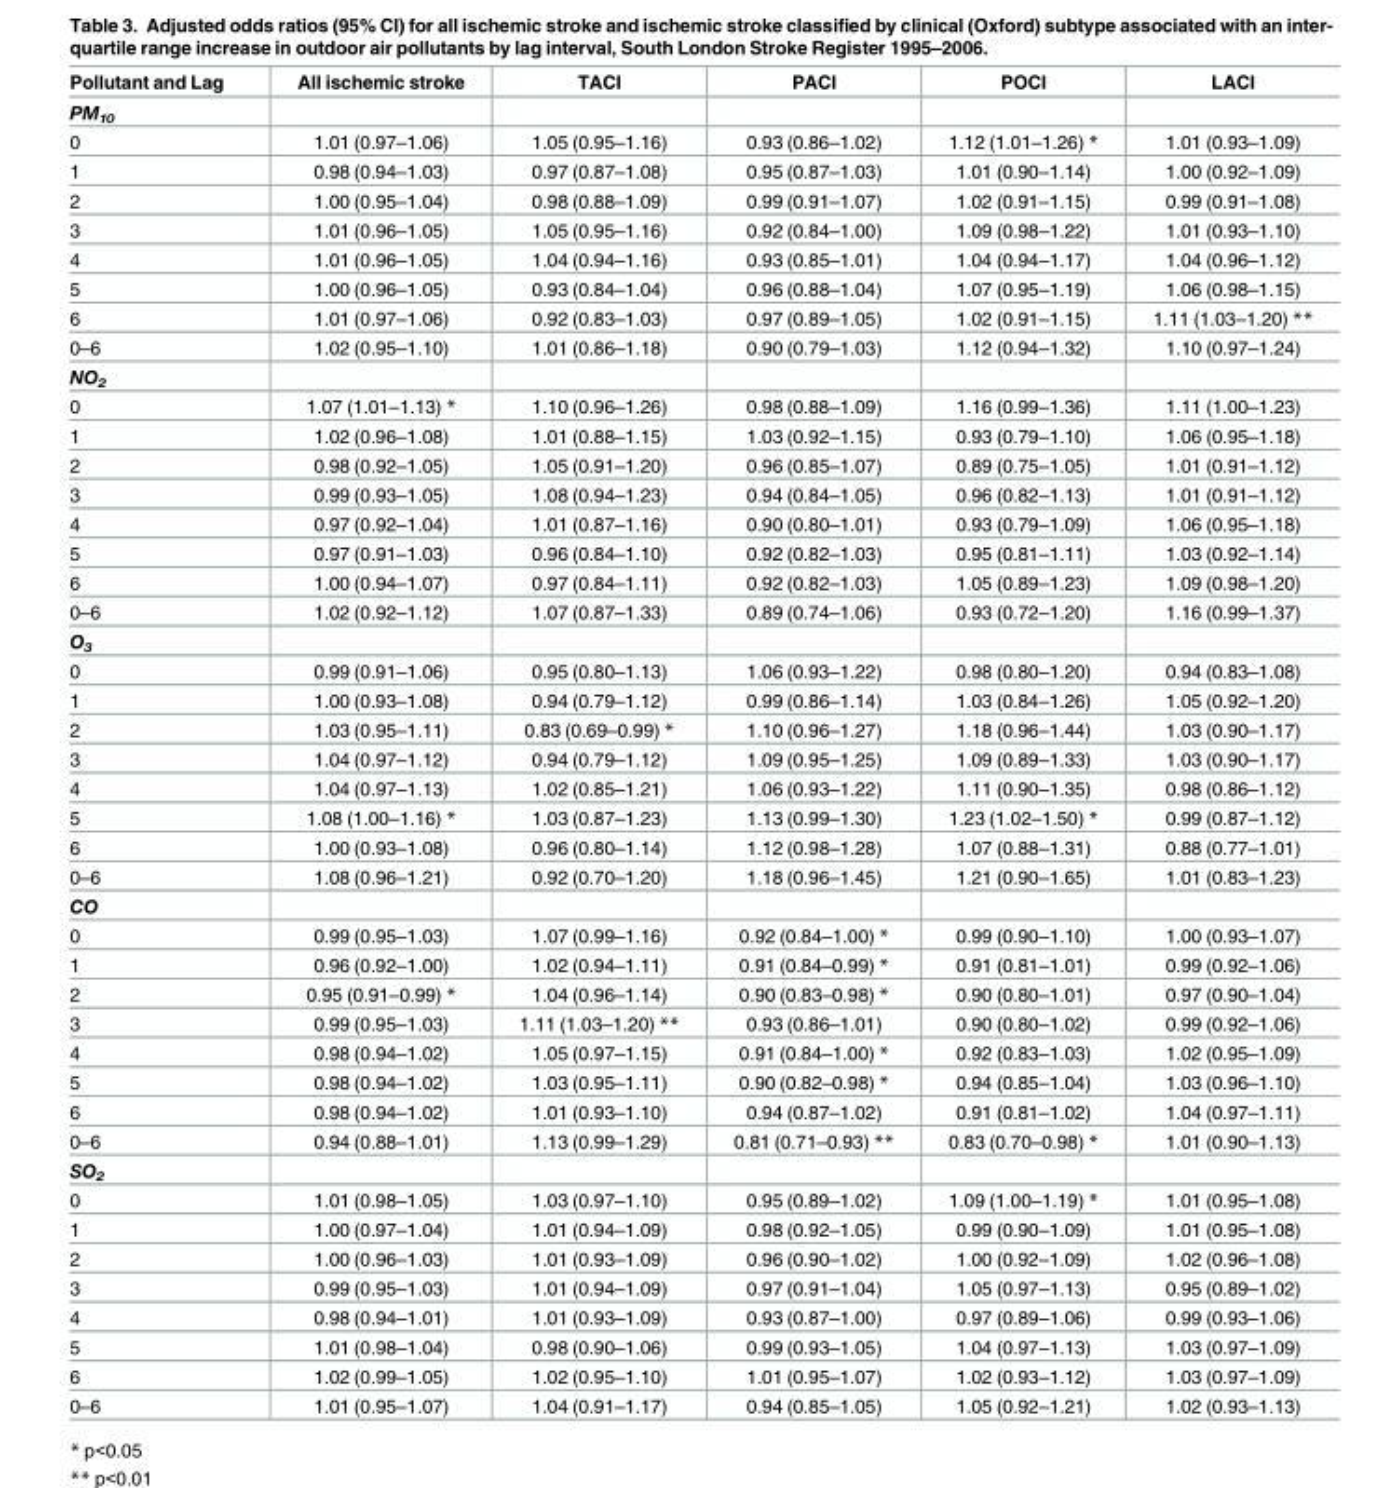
<table><thead><tr><td>Pollutant and Lag</td><td>All ischemic stroke</td><td>TACI</td><td>PACI</td><td>POCI</td><td>LACI</td></tr></thead><tbody><tr><td colspan="6">PM<sub>10</sub></td></tr><tr><td>0</td><td>1.01 (0.97–1.06)</td><td>1.05 (0.95–1.16)</td><td>0.93 (0.86–1.02)</td><td>1.12 (1.01–1.26) *</td><td>1.01 (0.93–1.09)</td></tr><tr><td>1</td><td>0.98 (0.94–1.03)</td><td>0.97 (0.87–1.08)</td><td>0.95 (0.87–1.03)</td><td>1.01 (0.90–1.14)</td><td>1.00 (0.92–1.09)</td></tr><tr><td>2</td><td>1.00 (0.95–1.04)</td><td>0.98 (0.88–1.09)</td><td>0.99 (0.91–1.07)</td><td>1.02 (0.91–1.15)</td><td>0.99 (0.91–1.08)</td></tr><tr><td>3</td><td>1.01 (0.96–1.05)</td><td>1.05 (0.95–1.16)</td><td>0.92 (0.84–1.00)</td><td>1.09 (0.98–1.22)</td><td>1.01 (0.93–1.10)</td></tr><tr><td>4</td><td>1.01 (0.96–1.05)</td><td>1.04 (0.94–1.16)</td><td>0.93 (0.85–1.01)</td><td>1.04 (0.94–1.17)</td><td>1.04 (0.96–1.12)</td></tr><tr><td>5</td><td>1.00 (0.96–1.05)</td><td>0.93 (0.84–1.04)</td><td>0.96 (0.88–1.04)</td><td>1.07 (0.95–1.19)</td><td>1.06 (0.98–1.15)</td></tr><tr><td>6</td><td>1.01 (0.97–1.06)</td><td>0.92 (0.83–1.03)</td><td>0.97 (0.89–1.05)</td><td>1.02 (0.91–1.15)</td><td>1.11 (1.03–1.20) **</td></tr><tr><td>0–6</td><td>1.02 (0.95–1.10)</td><td>1.01 (0.86–1.18)</td><td>0.90 (0.79–1.03)</td><td>1.12 (0.94–1.32)</td><td>1.10 (0.97–1.24)</td></tr><tr><td colspan="6">NO<sub>2</sub></td></tr><tr><td>0</td><td>1.07 (1.01–1.13) *</td><td>1.10 (0.96–1.26)</td><td>0.98 (0.88–1.09)</td><td>1.16 (0.99–1.36)</td><td>1.11 (1.00–1.23)</td></tr><tr><td>1</td><td>1.02 (0.96–1.08)</td><td>1.01 (0.88–1.15)</td><td>1.03 (0.92–1.15)</td><td>0.93 (0.79–1.10)</td><td>1.06 (0.95–1.18)</td></tr><tr><td>2</td><td>0.98 (0.92–1.05)</td><td>1.05 (0.91–1.20)</td><td>0.96 (0.85–1.07)</td><td>0.89 (0.75–1.05)</td><td>1.01 (0.91–1.12)</td></tr><tr><td>3</td><td>0.99 (0.93–1.05)</td><td>1.08 (0.94–1.23)</td><td>0.94 (0.84–1.05)</td><td>0.96 (0.82–1.13)</td><td>1.01 (0.91–1.12)</td></tr><tr><td>4</td><td>0.97 (0.92–1.04)</td><td>1.01 (0.87–1.16)</td><td>0.90 (0.80–1.01)</td><td>0.93 (0.79–1.09)</td><td>1.06 (0.95–1.18)</td></tr><tr><td>5</td><td>0.97 (0.91–1.03)</td><td>0.96 (0.84–1.10)</td><td>0.92 (0.82–1.03)</td><td>0.95 (0.81–1.11)</td><td>1.03 (0.92–1.14)</td></tr><tr><td>6</td><td>1.00 (0.94–1.07)</td><td>0.97 (0.84–1.11)</td><td>0.92 (0.82–1.03)</td><td>1.05 (0.89–1.23)</td><td>1.09 (0.98–1.20)</td></tr><tr><td>0–6</td><td>1.02 (0.92–1.12)</td><td>1.07 (0.87–1.33)</td><td>0.89 (0.74–1.06)</td><td>0.93 (0.72–1.20)</td><td>1.16 (0.99–1.37)</td></tr><tr><td colspan="6">O<sub>3</sub></td></tr><tr><td>0</td><td>0.99 (0.91–1.06)</td><td>0.95 (0.80–1.13)</td><td>1.06 (0.93–1.22)</td><td>0.98 (0.80–1.20)</td><td>0.94 (0.83–1.08)</td></tr><tr><td>1</td><td>1.00 (0.93–1.08)</td><td>0.94 (0.79–1.12)</td><td>0.99 (0.86–1.14)</td><td>1.03 (0.84–1.26)</td><td>1.05 (0.92–1.20)</td></tr><tr><td>2</td><td>1.03 (0.95–1.11)</td><td>0.83 (0.69–0.99) *</td><td>1.10 (0.96–1.27)</td><td>1.18 (0.96–1.44)</td><td>1.03 (0.90–1.17)</td></tr><tr><td>3</td><td>1.04 (0.97–1.12)</td><td>0.94 (0.79–1.12)</td><td>1.09 (0.95–1.25)</td><td>1.09 (0.89–1.33)</td><td>1.03 (0.90–1.17)</td></tr><tr><td>4</td><td>1.04 (0.97–1.13)</td><td>1.02 (0.85–1.21)</td><td>1.06 (0.93–1.22)</td><td>1.11 (0.90–1.35)</td><td>0.98 (0.86–1.12)</td></tr><tr><td>5</td><td>1.08 (1.00–1.16) *</td><td>1.03 (0.87–1.23)</td><td>1.13 (0.99–1.30)</td><td>1.23 (1.02–1.50) *</td><td>0.99 (0.87–1.12)</td></tr><tr><td>6</td><td>1.00 (0.93–1.08)</td><td>0.96 (0.80–1.14)</td><td>1.12 (0.98–1.28)</td><td>1.07 (0.88–1.31)</td><td>0.88 (0.77–1.01)</td></tr><tr><td>0–6</td><td>1.08 (0.96–1.21)</td><td>0.92 (0.70–1.20)</td><td>1.18 (0.96–1.45)</td><td>1.21 (0.90–1.65)</td><td>1.01 (0.83–1.23)</td></tr><tr><td colspan="6">CO</td></tr><tr><td>0</td><td>0.99 (0.95–1.03)</td><td>1.07 (0.99–1.16)</td><td>0.92 (0.84–1.00) *</td><td>0.99 (0.90–1.10)</td><td>1.00 (0.93–1.07)</td></tr><tr><td>1</td><td>0.96 (0.92–1.00)</td><td>1.02 (0.94–1.11)</td><td>0.91 (0.84–0.99) *</td><td>0.91 (0.81–1.01)</td><td>0.99 (0.92–1.06)</td></tr><tr><td>2</td><td>0.95 (0.91–0.99) *</td><td>1.04 (0.96–1.14)</td><td>0.90 (0.83–0.98) *</td><td>0.90 (0.80–1.01)</td><td>0.97 (0.90–1.04)</td></tr><tr><td>3</td><td>0.99 (0.95–1.03)</td><td>1.11 (1.03–1.20) **</td><td>0.93 (0.86–1.01)</td><td>0.90 (0.80–1.02)</td><td>0.99 (0.92–1.06)</td></tr><tr><td>4</td><td>0.98 (0.94–1.02)</td><td>1.05 (0.97–1.15)</td><td>0.91 (0.84–1.00) *</td><td>0.92 (0.83–1.03)</td><td>1.02 (0.95–1.09)</td></tr><tr><td>5</td><td>0.98 (0.94–1.02)</td><td>1.03 (0.95–1.11)</td><td>0.90 (0.82–0.98) *</td><td>0.94 (0.85–1.04)</td><td>1.03 (0.96–1.10)</td></tr><tr><td>6</td><td>0.98 (0.94–1.02)</td><td>1.01 (0.93–1.10)</td><td>0.94 (0.87–1.02)</td><td>0.91 (0.81–1.02)</td><td>1.04 (0.97–1.11)</td></tr><tr><td>0–6</td><td>0.94 (0.88–1.01)</td><td>1.13 (0.99–1.29)</td><td>0.81 (0.71–0.93) **</td><td>0.83 (0.70–0.98) *</td><td>1.01 (0.90–1.13)</td></tr><tr><td colspan="6">SO<sub>2</sub></td></tr><tr><td>0</td><td>1.01 (0.98–1.05)</td><td>1.03 (0.97–1.10)</td><td>0.95 (0.89–1.02)</td><td>1.09 (1.00–1.19) *</td><td>1.01 (0.95–1.08)</td></tr><tr><td>1</td><td>1.00 (0.97–1.04)</td><td>1.01 (0.94–1.09)</td><td>0.98 (0.92–1.05)</td><td>0.99 (0.90–1.09)</td><td>1.01 (0.95–1.08)</td></tr><tr><td>2</td><td>1.00 (0.96–1.03)</td><td>1.01 (0.93–1.09)</td><td>0.96 (0.90–1.02)</td><td>1.00 (0.92–1.09)</td><td>1.02 (0.96–1.08)</td></tr><tr><td>3</td><td>0.99 (0.95–1.03)</td><td>1.01 (0.94–1.09)</td><td>0.97 (0.91–1.04)</td><td>1.05 (0.97–1.13)</td><td>0.95 (0.89–1.02)</td></tr><tr><td>4</td><td>0.98 (0.94–1.01)</td><td>1.01 (0.93–1.09)</td><td>0.93 (0.87–1.00)</td><td>0.97 (0.89–1.06)</td><td>0.99 (0.93–1.06)</td></tr><tr><td>5</td><td>1.01 (0.98–1.04)</td><td>0.98 (0.90–1.06)</td><td>0.99 (0.93–1.05)</td><td>1.04 (0.97–1.13)</td><td>1.03 (0.97–1.09)</td></tr><tr><td>6</td><td>1.02 (0.99–1.05)</td><td>1.02 (0.95–1.10)</td><td>1.01 (0.95–1.07)</td><td>1.02 (0.93–1.12)</td><td>1.03 (0.97–1.09)</td></tr><tr><td>0–6</td><td>1.01 (0.95–1.07)</td><td>1.04 (0.91–1.17)</td><td>0.94 (0.85–1.05)</td><td>1.05 (0.92–1.21)</td><td>1.02 (0.93–1.13)</td></tr></tbody></table>